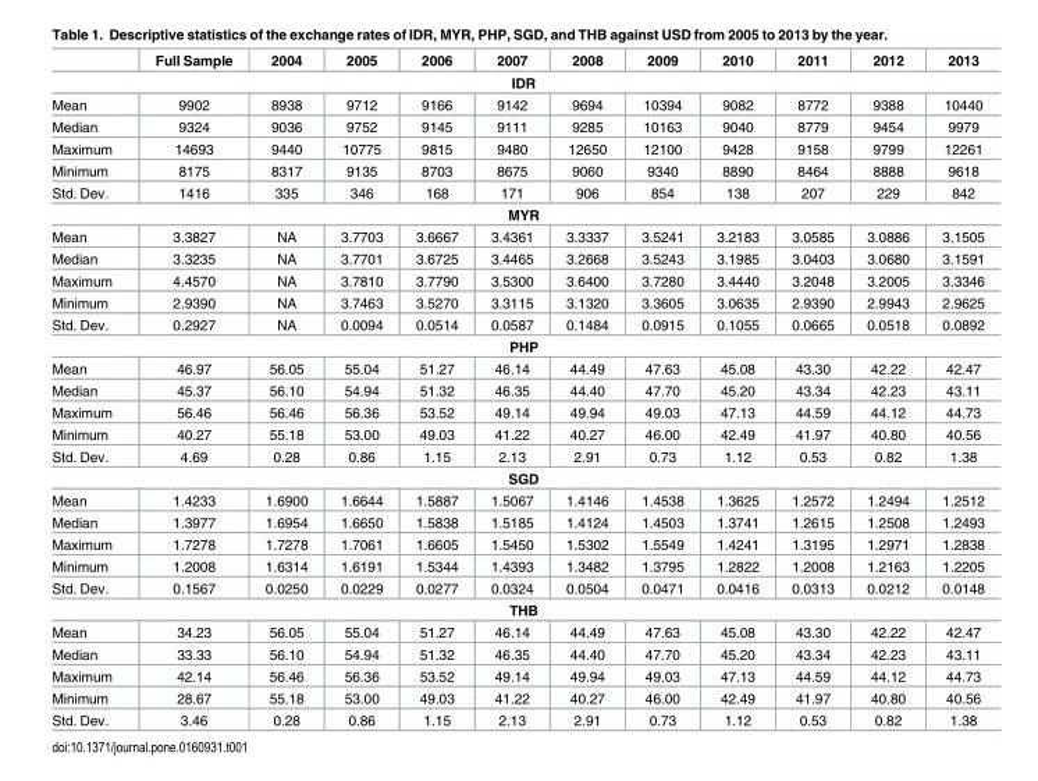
<table><thead><tr><td></td><td>Full Sample</td><td>2004</td><td>2005</td><td>2006</td><td>2007</td><td>2008</td><td>2009</td><td>2010</td><td>2011</td><td>2012</td><td>2013</td></tr></thead><tbody><tr><td colspan="12">IDR</td></tr><tr><td>Mean</td><td>9902</td><td>8938</td><td>9712</td><td>9166</td><td>9142</td><td>9694</td><td>10394</td><td>9082</td><td>8772</td><td>9388</td><td>10440</td></tr><tr><td>Median</td><td>9324</td><td>9036</td><td>9752</td><td>9145</td><td>9111</td><td>9285</td><td>10163</td><td>9040</td><td>8779</td><td>9454</td><td>9979</td></tr><tr><td>Maximum</td><td>14693</td><td>9440</td><td>10775</td><td>9815</td><td>9480</td><td>12650</td><td>12100</td><td>9428</td><td>9158</td><td>9799</td><td>12261</td></tr><tr><td>Minimum</td><td>8175</td><td>8317</td><td>9135</td><td>8703</td><td>8675</td><td>9060</td><td>9340</td><td>8890</td><td>8464</td><td>8888</td><td>9618</td></tr><tr><td>Std. Dev.</td><td>1416</td><td>335</td><td>346</td><td>168</td><td>171</td><td>906</td><td>854</td><td>138</td><td>207</td><td>229</td><td>842</td></tr><tr><td colspan="12">MYR</td></tr><tr><td>Mean</td><td>3.3827</td><td>NA</td><td>3.7703</td><td>3.6667</td><td>3.4361</td><td>3.3337</td><td>3.5241</td><td>3.2183</td><td>3.0585</td><td>3.0886</td><td>3.1505</td></tr><tr><td>Median</td><td>3.3235</td><td>NA</td><td>3.7701</td><td>3.6725</td><td>3.4465</td><td>3.2668</td><td>3.5243</td><td>3.1985</td><td>3.0403</td><td>3.0680</td><td>3.1591</td></tr><tr><td>Maximum</td><td>4.4570</td><td>NA</td><td>3.7810</td><td>3.7790</td><td>3.5300</td><td>3.6400</td><td>3.7280</td><td>3.4440</td><td>3.2048</td><td>3.2005</td><td>3.3346</td></tr><tr><td>Minimum</td><td>2.9390</td><td>NA</td><td>3.7463</td><td>3.5270</td><td>3.3115</td><td>3.1320</td><td>3.3605</td><td>3.0635</td><td>2.9390</td><td>2.9943</td><td>2.9625</td></tr><tr><td>Std. Dev.</td><td>0.2927</td><td>NA</td><td>0.0094</td><td>0.0514</td><td>0.0587</td><td>0.1484</td><td>0.0915</td><td>0.1055</td><td>0.0665</td><td>0.0518</td><td>0.0892</td></tr><tr><td colspan="12">PHP</td></tr><tr><td>Mean</td><td>46.97</td><td>56.05</td><td>55.04</td><td>51.27</td><td>46.14</td><td>44.49</td><td>47.63</td><td>45.08</td><td>43.30</td><td>42.22</td><td>42.47</td></tr><tr><td>Median</td><td>45.37</td><td>56.10</td><td>54.94</td><td>51.32</td><td>46.35</td><td>44.40</td><td>47.70</td><td>45.20</td><td>43.34</td><td>42.23</td><td>43.11</td></tr><tr><td>Maximum</td><td>56.46</td><td>56.46</td><td>56.36</td><td>53.52</td><td>49.14</td><td>49.94</td><td>49.03</td><td>47.13</td><td>44.59</td><td>44.12</td><td>44.73</td></tr><tr><td>Minimum</td><td>40.27</td><td>55.18</td><td>53.00</td><td>49.03</td><td>41.22</td><td>40.27</td><td>46.00</td><td>42.49</td><td>41.97</td><td>40.80</td><td>40.56</td></tr><tr><td>Std. Dev.</td><td>4.69</td><td>0.28</td><td>0.86</td><td>1.15</td><td>2.13</td><td>2.91</td><td>0.73</td><td>1.12</td><td>0.53</td><td>0.82</td><td>1.38</td></tr><tr><td colspan="12">SGD</td></tr><tr><td>Mean</td><td>1.4233</td><td>1.6900</td><td>1.6644</td><td>1.5887</td><td>1.5067</td><td>1.4146</td><td>1.4538</td><td>1.3625</td><td>1.2572</td><td>1.2494</td><td>1.2512</td></tr><tr><td>Median</td><td>1.3977</td><td>1.6954</td><td>1.6650</td><td>1.5838</td><td>1.5185</td><td>1.4124</td><td>1.4503</td><td>1.3741</td><td>1.2615</td><td>1.2508</td><td>1.2493</td></tr><tr><td>Maximum</td><td>1.7278</td><td>1.7278</td><td>1.7061</td><td>1.6605</td><td>1.5450</td><td>1.5302</td><td>1.5549</td><td>1.4241</td><td>1.3195</td><td>1.2971</td><td>1.2838</td></tr><tr><td>Minimum</td><td>1.2008</td><td>1.6314</td><td>1.6191</td><td>1.5344</td><td>1.4393</td><td>1.3482</td><td>1.3795</td><td>1.2822</td><td>1.2008</td><td>1.2163</td><td>1.2205</td></tr><tr><td>Std. Dev.</td><td>0.1567</td><td>0.0250</td><td>0.0229</td><td>0.0277</td><td>0.0324</td><td>0.0504</td><td>0.0471</td><td>0.0416</td><td>0.0313</td><td>0.0212</td><td>0.0148</td></tr><tr><td colspan="12">THB</td></tr><tr><td>Mean</td><td>34.23</td><td>56.05</td><td>55.04</td><td>51.27</td><td>46.14</td><td>44.49</td><td>47.63</td><td>45.08</td><td>43.30</td><td>42.22</td><td>42.47</td></tr><tr><td>Median</td><td>33.33</td><td>56.10</td><td>54.94</td><td>51.32</td><td>46.35</td><td>44.40</td><td>47.70</td><td>45.20</td><td>43.34</td><td>42.23</td><td>43.11</td></tr><tr><td>Maximum</td><td>42.14</td><td>56.46</td><td>56.36</td><td>53.52</td><td>49.14</td><td>49.94</td><td>49.03</td><td>47.13</td><td>44.59</td><td>44.12</td><td>44.73</td></tr><tr><td>Minimum</td><td>28.67</td><td>55.18</td><td>53.00</td><td>49.03</td><td>41.22</td><td>40.27</td><td>46.00</td><td>42.49</td><td>41.97</td><td>40.80</td><td>40.56</td></tr><tr><td>Std. Dev.</td><td>3.46</td><td>0.28</td><td>0.86</td><td>1.15</td><td>2.13</td><td>2.91</td><td>0.73</td><td>1.12</td><td>0.53</td><td>0.82</td><td>1.38</td></tr></tbody></table>